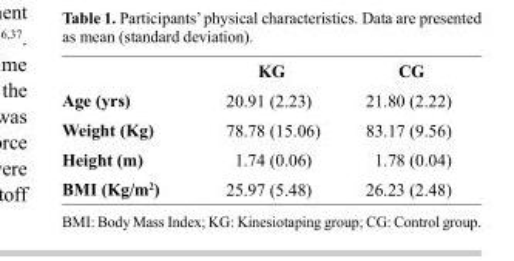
<table><thead><tr><td></td><td>KG</td><td>CG</td></tr></thead><tbody><tr><td>Age (yrs)</td><td>20.91 (2.23)</td><td>21.80 (2.22)</td></tr><tr><td>Weight (Kg)</td><td>78.78 (15.06)</td><td>83.17 (9.56)</td></tr><tr><td>Height (m)</td><td>1.74 (0.06)</td><td>1.78 (0.04)</td></tr><tr><td>BMI (Kg/m<sup>2</sup>)</td><td>25.97 (5.48)</td><td>26.23 (2.48)</td></tr></tbody></table>